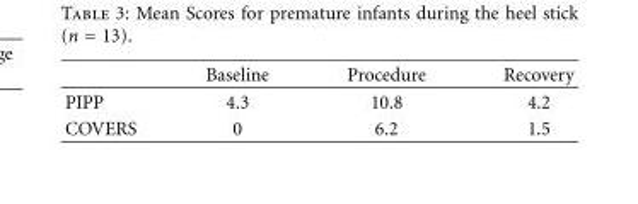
<table><thead><tr><td></td><td>Baseline</td><td>Procedure</td><td>Recovery</td></tr></thead><tbody><tr><td>PIPP</td><td>4.3</td><td>10.8</td><td>4.2</td></tr><tr><td>COVERS</td><td>0</td><td>6.2</td><td>1.5</td></tr></tbody></table>